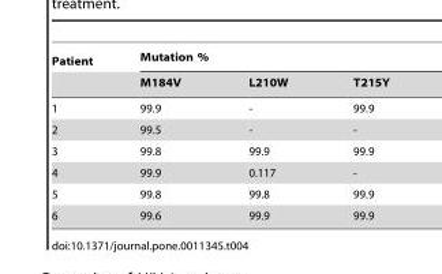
<table><thead><tr><td rowspan="2">Patient</td><td colspan="3">Mutation %</td></tr><tr><td>M184V</td><td>L210W</td><td>T215Y</td></tr></thead><tbody><tr><td>1</td><td>99.9</td><td>-</td><td>99.9</td></tr><tr><td>2</td><td>99.5</td><td>-</td><td>-</td></tr><tr><td>3</td><td>99.8</td><td>99.9</td><td>99.9</td></tr><tr><td>4</td><td>99.9</td><td>0.117</td><td>-</td></tr><tr><td>5</td><td>99.8</td><td>99.8</td><td>99.9</td></tr><tr><td>6</td><td>99.6</td><td>99.9</td><td>99.9</td></tr></tbody></table>